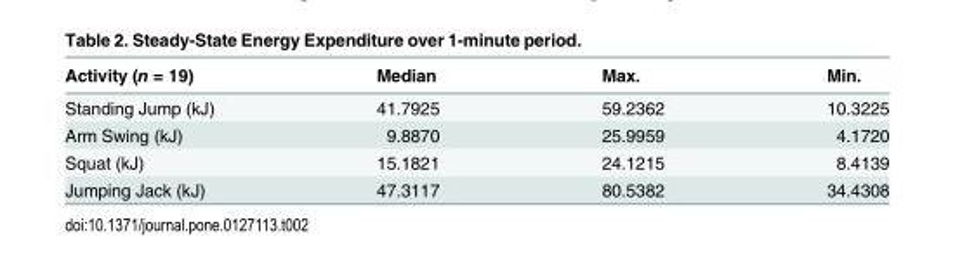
<table><thead><tr><td>Activity (n = 19)</td><td>Median</td><td>Max.</td><td>Min.</td></tr></thead><tbody><tr><td>Standing Jump (kJ)</td><td>41.7925</td><td>59.2362</td><td>10.3225</td></tr><tr><td>Arm Swing (kJ)</td><td>9.8870</td><td>25.9959</td><td>4.1720</td></tr><tr><td>Squat (kJ)</td><td>15.1821</td><td>24.1215</td><td>8.4139</td></tr><tr><td>Jumping Jack (kJ)</td><td>47.3117</td><td>80.5382</td><td>34.4308</td></tr></tbody></table>